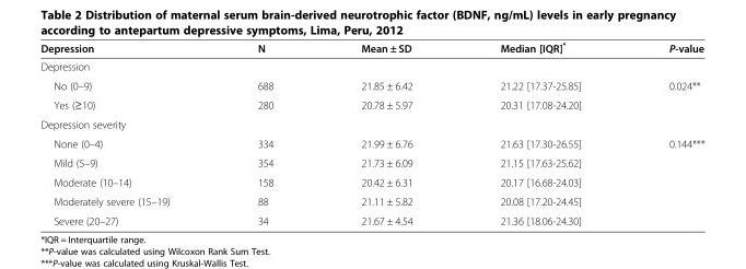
<table><thead><tr><td>Depression</td><td>N</td><td>Mean ± SD</td><td>Median [IQR]*</td><td>P-value</td></tr></thead><tbody><tr><td colspan="5">Depression</td></tr><tr><td>No (0–9)</td><td>688</td><td>21.85 ± 6.42</td><td>21.22 [17.37-25.85]</td><td rowspan="2">0.024**</td></tr><tr><td>Yes (≥10)</td><td>280</td><td>20.78 ± 5.97</td><td>20.31 [17.08-24.20]</td></tr><tr><td colspan="5">Depression severity</td></tr><tr><td>None (0–4)</td><td>334</td><td>21.99 ± 6.76</td><td>21.63 [17.30-26.55]</td><td rowspan="5">0.144***</td></tr><tr><td>Mild (5–9)</td><td>354</td><td>21.73 ± 6.09</td><td>21.15 [17.63-25.62]</td></tr><tr><td>Moderate (10–14)</td><td>158</td><td>20.42 ± 6.31</td><td>20.17 [16.68-24.03]</td></tr><tr><td>Moderately severe (15–19)</td><td>88</td><td>21.11 ± 5.82</td><td>20.08 [17.20-24.45]</td></tr><tr><td>Severe (20–27)</td><td>34</td><td>21.67 ± 4.54</td><td>21.36 [18.06-24.30]</td></tr></tbody></table>